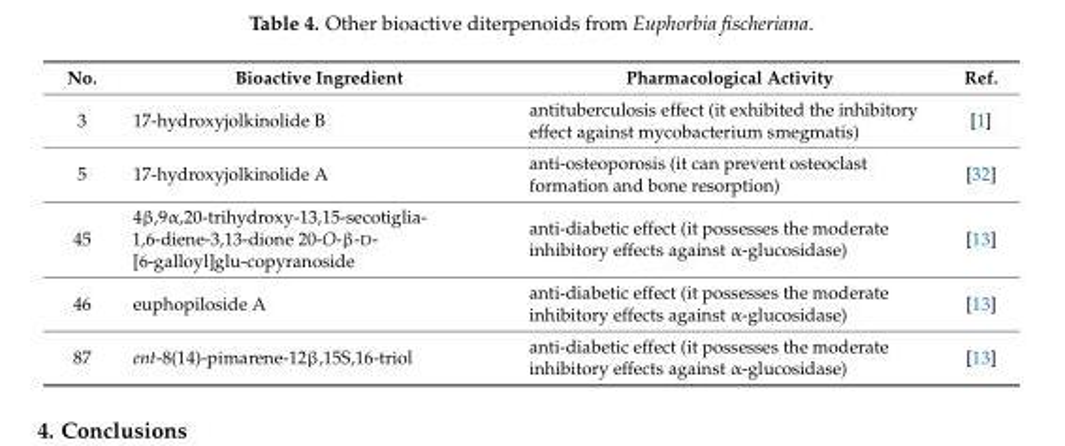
<table><thead><tr><td>No.</td><td>Bioactive Ingredient</td><td>Pharmacological Activity</td><td>Ref.</td></tr></thead><tbody><tr><td>3</td><td>17-hydroxyjolkinolide B</td><td>antituberculosis effect (it exhibited the inhibitory effect against mycobacterium smegmatis)</td><td>[1]</td></tr><tr><td>5</td><td>17-hydroxyjolkinolide A</td><td>anti-osteoporosis (it can prevent osteoclast formation and bone resorption)</td><td>[32]</td></tr><tr><td>45</td><td>4β,9α,20-trihydroxy-13,15-secotiglia- 1,6-diene-3,13-dione 20-O-β-D- [6-galloyl]glu-copyranoside</td><td>anti-diabetic effect (it possesses the moderate inhibitory effects against α-glucosidase)</td><td>[13]</td></tr><tr><td>46</td><td>euphopiloside A</td><td>anti-diabetic effect (it possesses the moderate inhibitory effects against α-glucosidase)</td><td>[13]</td></tr><tr><td>87</td><td>ent-8(14)-pimarene-12β,15S,16-triol</td><td>anti-diabetic effect (it possesses the moderate inhibitory effects against α-glucosidase)</td><td>[13]</td></tr></tbody></table>